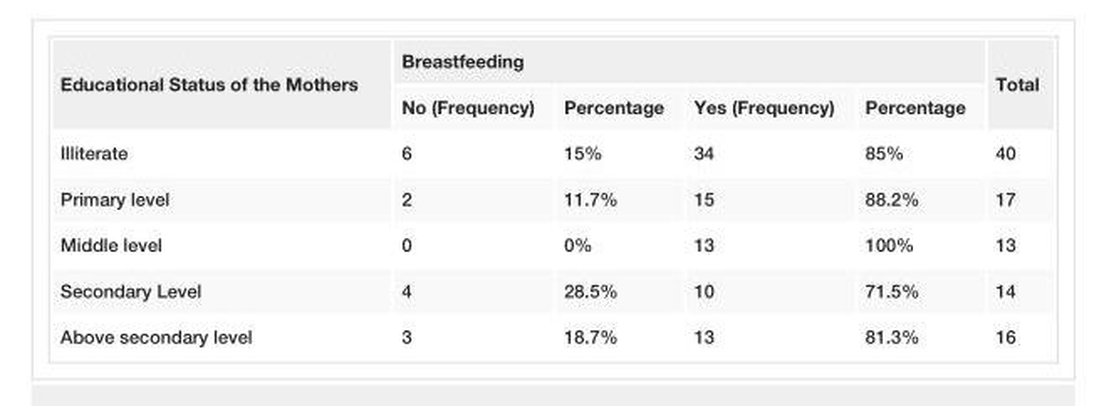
<table><tbody><tr><td rowspan="2">Educational Status of the Mothers</td><td colspan="4">Breastfeeding</td><td rowspan="2">Total</td></tr><tr><td>No (Frequency)</td><td>Percentage</td><td>Yes (Frequency)</td><td>Percentage</td></tr><tr><td>Illiterate</td><td>6</td><td>15%</td><td>34</td><td>85%</td><td>40</td></tr><tr><td>Primary level</td><td>2</td><td>11.7%</td><td>15</td><td>88.2%</td><td>17</td></tr><tr><td>Middle level</td><td>0</td><td>0%</td><td>13</td><td>100%</td><td>13</td></tr><tr><td>Secondary Level</td><td>4</td><td>28.5%</td><td>10</td><td>71.5%</td><td>14</td></tr><tr><td>Above secondary level</td><td>3</td><td>18.7%</td><td>13</td><td>81.3%</td><td>16</td></tr></tbody></table>